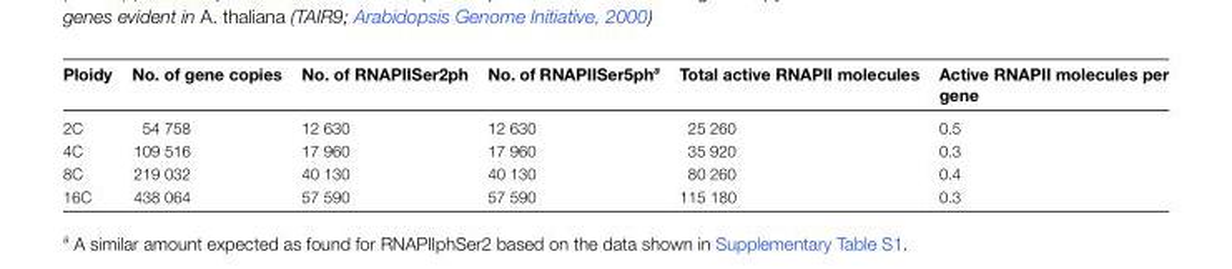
<table><thead><tr><td>Ploidy</td><td>No. of gene copies</td><td>No. of RNAPIISer2ph</td><td>No. of RNAPIISer5ph<sup>a</sup></td><td>Total active RNAPII molecules</td><td>Active RNAPII molecules per gene</td></tr></thead><tbody><tr><td>2C</td><td>54 758</td><td>12 630</td><td>12 630</td><td>25 260</td><td>0.5</td></tr><tr><td>4C</td><td>109 516</td><td>17 960</td><td>17 960</td><td>35 920</td><td>0.3</td></tr><tr><td>8C</td><td>219 032</td><td>40 130</td><td>40 130</td><td>80 260</td><td>0.4</td></tr><tr><td>16C</td><td>438 064</td><td>57 590</td><td>57 590</td><td>115 180</td><td>0.3</td></tr></tbody></table>